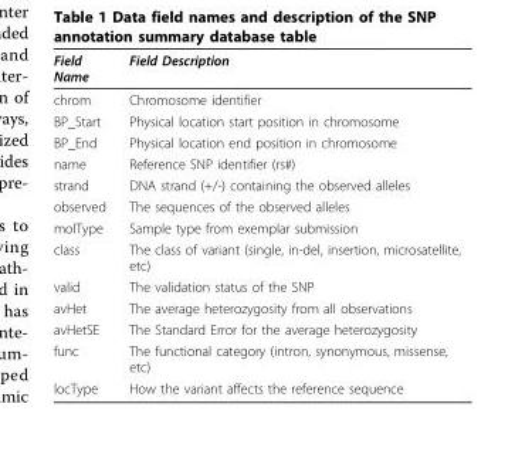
<table><thead><tr><td>Field Name</td><td>Field Description</td></tr></thead><tbody><tr><td>chrom</td><td>Chromosome identifier</td></tr><tr><td>BP_Start</td><td>Physical location start position in chromosome</td></tr><tr><td>BP_End</td><td>Physical location end position in chromosome</td></tr><tr><td>name</td><td>Reference SNP identifier (rs#)</td></tr><tr><td>strand</td><td>DNA strand (+/-) containing the observed alleles</td></tr><tr><td>observed</td><td>The sequences of the observed alleles</td></tr><tr><td>molType</td><td>Sample type from exemplar submission</td></tr><tr><td>class</td><td>The class of variant (single, in-del, insertion, microsatellite, etc)</td></tr><tr><td>valid</td><td>The validation status of the SNP</td></tr><tr><td>avHet</td><td>The average heterozygosity from all observations</td></tr><tr><td>avHetSE</td><td>The Standard Error for the average heterozygosity</td></tr><tr><td>func</td><td>The functional category (intron, synonymous, missense, etc)</td></tr><tr><td>locType</td><td>How the variant affects the reference sequence</td></tr></tbody></table>